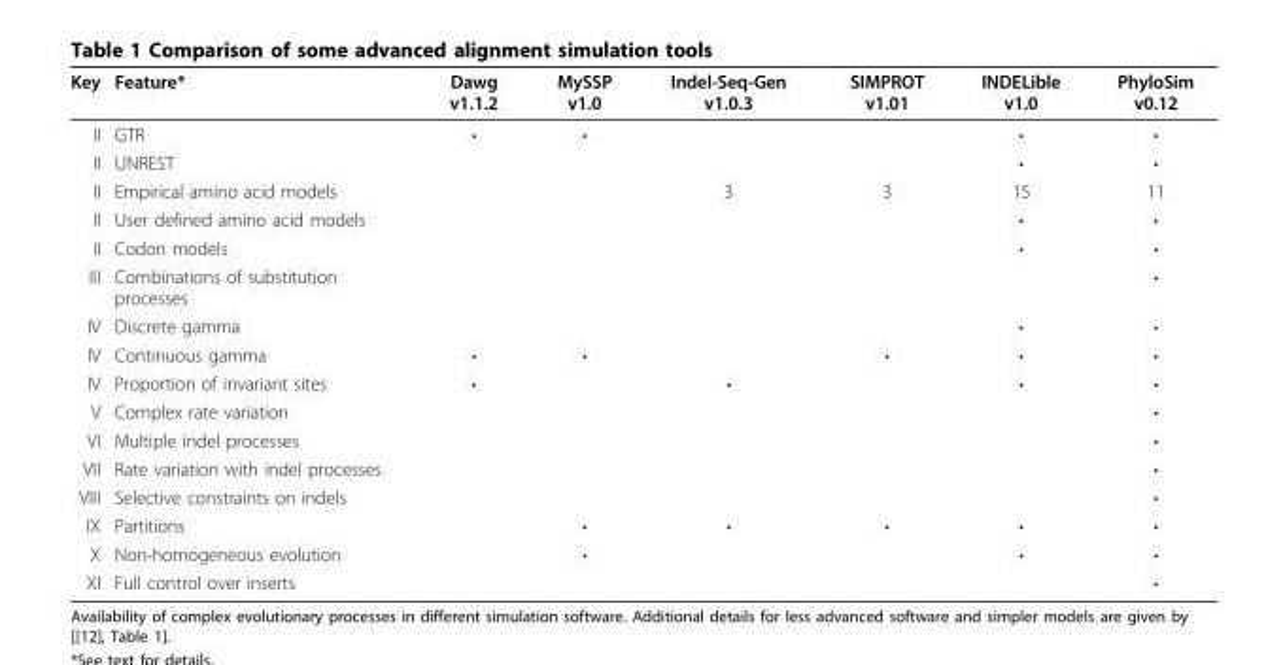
<table><thead><tr><td>Key</td><td>Feature*</td><td>Dawg v1.1.2</td><td>MySSP v1.0</td><td>Indel-Seq-Gen v1.0.3</td><td>SIMPROT v1.01</td><td>INDELible v1.0</td><td>PhyloSim v0.12</td></tr></thead><tbody><tr><td>II</td><td>GTR</td><td>•</td><td>•</td><td></td><td></td><td>•</td><td>•</td></tr><tr><td>II</td><td>UNREST</td><td></td><td></td><td></td><td></td><td>•</td><td>•</td></tr><tr><td>II</td><td>Empirical amino acid models</td><td></td><td></td><td>3</td><td>3</td><td>15</td><td>11</td></tr><tr><td>II</td><td>User defined amino acid models</td><td></td><td></td><td></td><td></td><td>•</td><td>•</td></tr><tr><td>II</td><td>Codon models</td><td></td><td></td><td></td><td></td><td>•</td><td>•</td></tr><tr><td>III</td><td>Combinations of substitution processes</td><td></td><td></td><td></td><td></td><td></td><td>•</td></tr><tr><td>IV</td><td>Discrete gamma</td><td></td><td></td><td></td><td></td><td>•</td><td>•</td></tr><tr><td>IV</td><td>Continuous gamma</td><td>•</td><td>•</td><td></td><td>•</td><td>•</td><td>•</td></tr><tr><td>IV</td><td>Proportion of invariant sites</td><td>•</td><td></td><td>•</td><td></td><td>•</td><td>•</td></tr><tr><td>V</td><td>Complex rate variation</td><td></td><td></td><td></td><td></td><td></td><td>•</td></tr><tr><td>VI</td><td>Multiple indel processes</td><td></td><td></td><td></td><td></td><td></td><td>•</td></tr><tr><td>VII</td><td>Rate variation with indel processes</td><td></td><td></td><td></td><td></td><td></td><td>•</td></tr><tr><td>VIII</td><td>Selective constraints on indels</td><td></td><td></td><td></td><td></td><td></td><td>•</td></tr><tr><td>IX</td><td>Partitions</td><td></td><td>•</td><td>•</td><td>•</td><td>•</td><td>•</td></tr><tr><td>X</td><td>Non-homogeneous evolution</td><td></td><td>•</td><td></td><td></td><td>•</td><td>•</td></tr><tr><td>XI</td><td>Full control over inserts</td><td></td><td></td><td></td><td></td><td></td><td>•</td></tr></tbody></table>